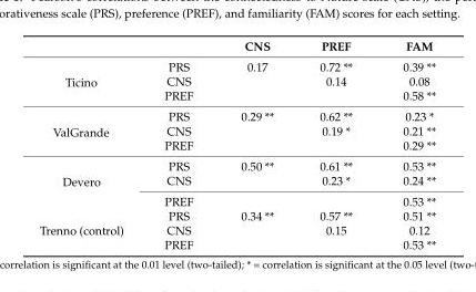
<table><thead><tr><td></td><td></td><td>CNS</td><td>PREF</td><td>FAM</td></tr></thead><tbody><tr><td rowspan="3">Ticino</td><td>PRS</td><td>0.17</td><td>0.72 **</td><td>0.39 **</td></tr><tr><td>CNS</td><td></td><td>0.14</td><td>0.08</td></tr><tr><td>PREF</td><td></td><td></td><td>0.58 **</td></tr><tr><td rowspan="3">ValGrande</td><td>PRS</td><td>0.29 **</td><td>0.62 **</td><td>0.23 *</td></tr><tr><td>CNS</td><td></td><td>0.19 *</td><td>0.21 **</td></tr><tr><td>PREF</td><td></td><td></td><td>0.29 **</td></tr><tr><td rowspan="3">Devero</td><td>PRS</td><td>0.50 **</td><td>0.61 **</td><td>0.53 **</td></tr><tr><td>CNS</td><td></td><td>0.23 *</td><td>0.24 **</td></tr><tr><td>PREF</td><td></td><td></td><td>0.53 **</td></tr><tr><td rowspan="3">Trenno (control)</td><td>PRS</td><td>0.34 **</td><td>0.57 **</td><td>0.51 **</td></tr><tr><td>CNS</td><td></td><td>0.15</td><td>0.12</td></tr><tr><td>PREF</td><td></td><td></td><td>0.53 **</td></tr></tbody></table>